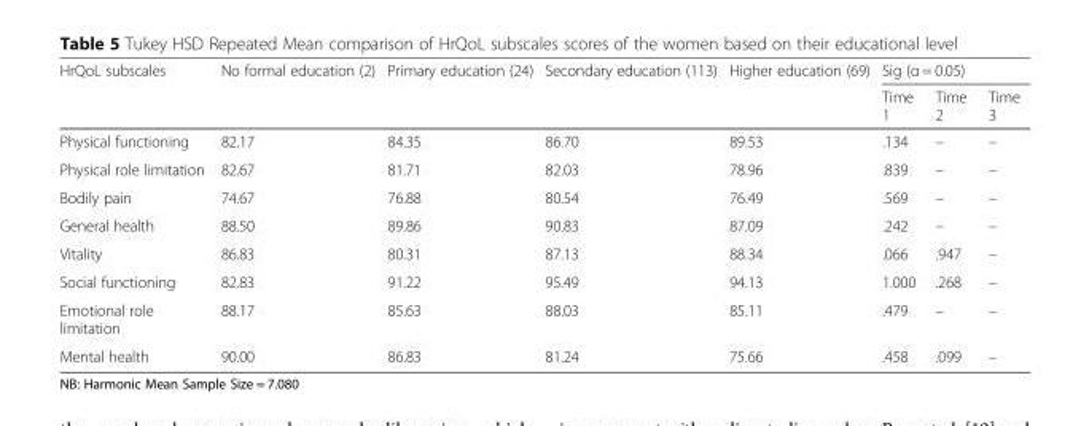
<table><thead><tr><td rowspan="2">HrQoL subscales</td><td rowspan="2">No formal education (2)</td><td rowspan="2">Primary education (24)</td><td rowspan="2">Secondary education (113)</td><td rowspan="2">Higher education (69)</td><td colspan="3">Sig (α = 0.05)</td></tr><tr><td>Time 1</td><td>Time 2</td><td>Time 3</td></tr></thead><tbody><tr><td>Physical functioning</td><td>82.17</td><td>84.35</td><td>86.70</td><td>89.53</td><td>.134</td><td>–</td><td>–</td></tr><tr><td>Physical role limitation</td><td>82.67</td><td>81.71</td><td>82.03</td><td>78.96</td><td>.839</td><td>–</td><td>–</td></tr><tr><td>Bodily pain</td><td>74.67</td><td>76.88</td><td>80.54</td><td>76.49</td><td>.569</td><td>–</td><td>–</td></tr><tr><td>General health</td><td>88.50</td><td>89.86</td><td>90.83</td><td>87.09</td><td>.242</td><td>–</td><td>–</td></tr><tr><td>Vitality</td><td>86.83</td><td>80.31</td><td>87.13</td><td>88.34</td><td>.066</td><td>.947</td><td>–</td></tr><tr><td>Social functioning</td><td>82.83</td><td>91.22</td><td>95.49</td><td>94.13</td><td>1.000</td><td>.268</td><td>–</td></tr><tr><td>Emotional role limitation</td><td>88.17</td><td>85.63</td><td>88.03</td><td>85.11</td><td>.479</td><td>–</td><td>–</td></tr><tr><td>Mental health</td><td>90.00</td><td>86.83</td><td>81.24</td><td>75.66</td><td>.458</td><td>.099</td><td>–</td></tr></tbody></table>